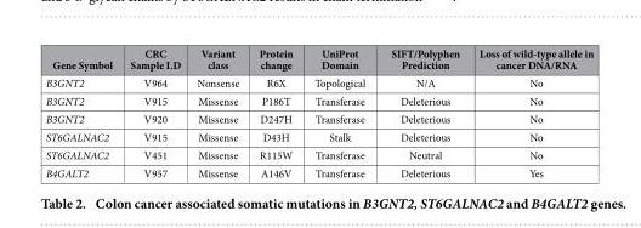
<table><thead><tr><td>Gene Symbol</td><td>CRC Sample I.D</td><td>Variant class</td><td>Protein change</td><td>UniProt Domain</td><td>SIFT/Polyphen Prediction</td><td>Loss of wild-type allele in cancer DNA/RNA</td></tr></thead><tbody><tr><td>B3GNT2</td><td>V964</td><td>Nonsense</td><td>R6X</td><td>Topological</td><td>N/A</td><td>No</td></tr><tr><td>B3GNT2</td><td>V915</td><td>Missense</td><td>P186T</td><td>Transferase</td><td>Deleterious</td><td>No</td></tr><tr><td>B3GNT2</td><td>V920</td><td>Missense</td><td>D247H</td><td>Transferase</td><td>Deleterious</td><td>No</td></tr><tr><td>ST6GALNAC2</td><td>V915</td><td>Missense</td><td>D43H</td><td>Stalk</td><td>Deleterious</td><td>No</td></tr><tr><td>ST6GALNAC2</td><td>V451</td><td>Missense</td><td>R115W</td><td>Transferase</td><td>Neutral</td><td>No</td></tr><tr><td>B4GALT2</td><td>V957</td><td>Missense</td><td>A146V</td><td>Transferase</td><td>Deleterious</td><td>Yes</td></tr></tbody></table>